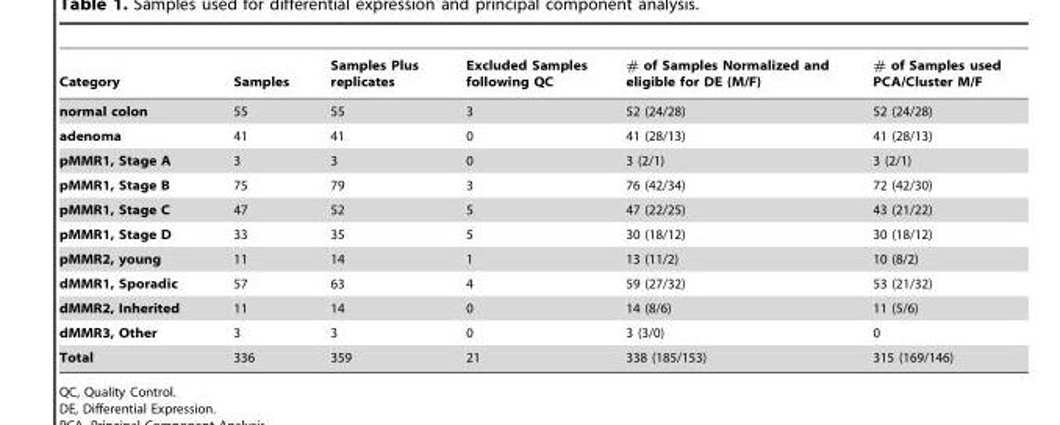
<table><thead><tr><td>Category</td><td>Samples</td><td>Samples Plus replicates</td><td>Excluded Samples following QC</td><td># of Samples Normalized and eligible for DE (M/F)</td><td># of Samples used PCA/Cluster M/F</td></tr></thead><tbody><tr><td>normal colon</td><td>55</td><td>55</td><td>3</td><td>52 (24/28)</td><td>52 (24/28)</td></tr><tr><td>adenoma</td><td>41</td><td>41</td><td>0</td><td>41 (28/13)</td><td>41 (28/13)</td></tr><tr><td>pMMR1, Stage A</td><td>3</td><td>3</td><td>0</td><td>3 (2/1)</td><td>3 (2/1)</td></tr><tr><td>pMMR1, Stage B</td><td>75</td><td>79</td><td>3</td><td>76 (42/34)</td><td>72 (42/30)</td></tr><tr><td>pMMR1, Stage C</td><td>47</td><td>52</td><td>5</td><td>47 (22/25)</td><td>43 (21/22)</td></tr><tr><td>pMMR1, Stage D</td><td>33</td><td>35</td><td>5</td><td>30 (18/12)</td><td>30 (18/12)</td></tr><tr><td>pMMR2, young</td><td>11</td><td>14</td><td>1</td><td>13 (11/2)</td><td>10 (8/2)</td></tr><tr><td>dMMR1, Sporadic</td><td>57</td><td>63</td><td>4</td><td>59 (27/32)</td><td>53 (21/32)</td></tr><tr><td>dMMR2, Inherited</td><td>11</td><td>14</td><td>0</td><td>14 (8/6)</td><td>11 (5/6)</td></tr><tr><td>dMMR3, Other</td><td>3</td><td>3</td><td>0</td><td>3 (3/0)</td><td>0</td></tr><tr><td>Total</td><td>336</td><td>359</td><td>21</td><td>338 (185/153)</td><td>315 (169/146)</td></tr></tbody></table>